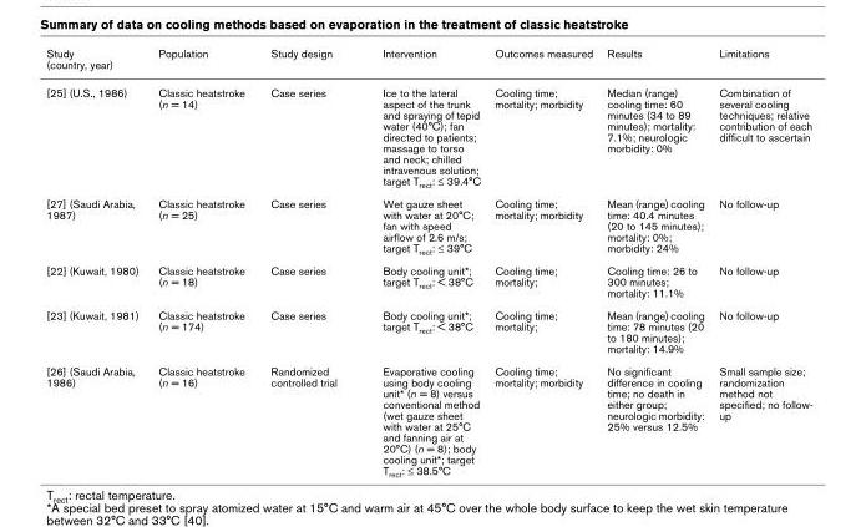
<table><thead><tr><td>Study (country, year)</td><td>Population</td><td>Study design</td><td>Intervention</td><td>Outcomes measured</td><td>Results</td><td>Limitations</td></tr></thead><tbody><tr><td>[25] (U.S., 1986)</td><td>Classic heatstroke (n = 14)</td><td>Case series</td><td>Ice to the lateral aspect of the trunk and spraying of tepid water (40°C); fan directed to patients; massage to torso and neck; chilled intravenous solution; target T<sub>rect</sub>: ≤ 39.4°C</td><td>Cooling time; mortality; morbidity</td><td>Median (range) cooling time: 60 minutes (34 to 89 minutes); mortality: 7.1%; neurologic morbidity: 0%</td><td>Combination of several cooling techniques; relative contribution of each difficult to ascertain</td></tr><tr><td>[27] (Saudi Arabia, 1987)</td><td>Classic heatstroke (n = 25)</td><td>Case series</td><td>Wet gauze sheet with water at 20°C; fan with speed airflow of 2.6 m/s; target T<sub>rect</sub>: ≤ 39°C</td><td>Cooling time; mortality; morbidity</td><td>Mean (range) cooling time: 40.4 minutes (20 to 145 minutes); mortality: 0%; morbidity: 24%</td><td>No follow-up</td></tr><tr><td>[22] (Kuwait, 1980)</td><td>Classic heatstroke (n = 18)</td><td>Case series</td><td>Body cooling unit*; target T<sub>rect</sub>: &lt; 38°C</td><td>Cooling time; mortality;</td><td>Cooling time: 26 to 300 minutes; mortality: 11.1%</td><td>No follow-up</td></tr><tr><td>[23] (Kuwait, 1981)</td><td>Classic heatstroke (n = 174)</td><td>Case series</td><td>Body cooling unit*; target T<sub>rect</sub>: &lt; 38°C</td><td>Cooling time; mortality;</td><td>Mean (range) cooling time: 78 minutes (20 to 180 minutes); mortality: 14.9%</td><td>No follow-up</td></tr><tr><td>[26] (Saudi Arabia, 1986)</td><td>Classic heatstroke (n = 16)</td><td>Randomized controlled trial</td><td>Evaporative cooling using body cooling unit* (n = 8) versus conventional method (wet gauze sheet with water at 25°C and fanning air at 20°C) (n = 8); body cooling unit*; target T<sub>rect</sub>: ≤ 38.5°C</td><td>Cooling time; mortality; morbidity</td><td>No significant difference in cooling time; no death in either group; neurologic morbidity: 25% versus 12.5%</td><td>Small sample size; randomization method not specified; no follow- up</td></tr></tbody></table>